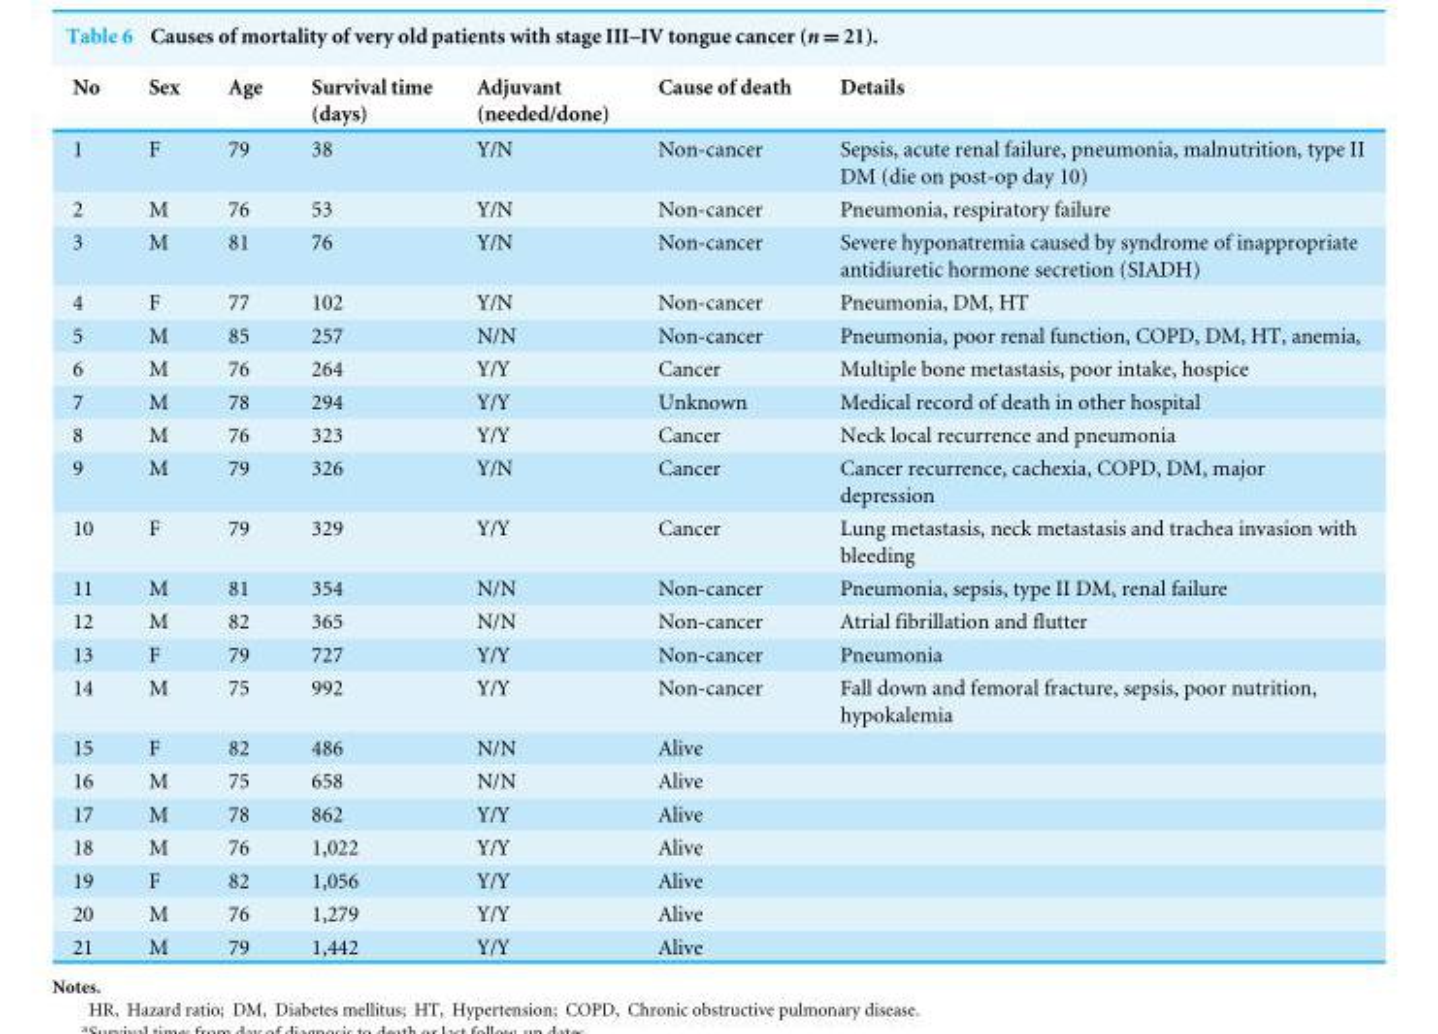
<table><thead><tr><td>No</td><td>Sex</td><td>Age</td><td>Survival time (days)</td><td>Adjuvant (needed/done)</td><td>Cause of death</td><td>Details</td></tr></thead><tbody><tr><td>1</td><td>F</td><td>79</td><td>38</td><td>Y/N</td><td>Non-cancer</td><td>Sepsis, acute renal failure, pneumonia, malnutrition, type II DM (die on post-op day 10)</td></tr><tr><td>2</td><td>M</td><td>76</td><td>53</td><td>Y/N</td><td>Non-cancer</td><td>Pneumonia, respiratory failure</td></tr><tr><td>3</td><td>M</td><td>81</td><td>76</td><td>Y/N</td><td>Non-cancer</td><td>Severe hyponatremia caused by syndrome of inappropriate antidiuretic hormone secretion (SIADH)</td></tr><tr><td>4</td><td>F</td><td>77</td><td>102</td><td>Y/N</td><td>Non-cancer</td><td>Pneumonia, DM, HT</td></tr><tr><td>5</td><td>M</td><td>85</td><td>257</td><td>N/N</td><td>Non-cancer</td><td>Pneumonia, poor renal function, COPD, DM, HT, anemia,</td></tr><tr><td>6</td><td>M</td><td>76</td><td>264</td><td>Y/Y</td><td>Cancer</td><td>Multiple bone metastasis, poor intake, hospice</td></tr><tr><td>7</td><td>M</td><td>78</td><td>294</td><td>Y/Y</td><td>Unknown</td><td>Medical record of death in other hospital</td></tr><tr><td>8</td><td>M</td><td>76</td><td>323</td><td>Y/Y</td><td>Cancer</td><td>Neck local recurrence and pneumonia</td></tr><tr><td>9</td><td>M</td><td>79</td><td>326</td><td>Y/N</td><td>Cancer</td><td>Cancer recurrence, cachexia, COPD, DM, major depression</td></tr><tr><td>10</td><td>F</td><td>79</td><td>329</td><td>Y/Y</td><td>Cancer</td><td>Lung metastasis, neck metastasis and trachea invasion with bleeding</td></tr><tr><td>11</td><td>M</td><td>81</td><td>354</td><td>N/N</td><td>Non-cancer</td><td>Pneumonia, sepsis, type II DM, renal failure</td></tr><tr><td>12</td><td>M</td><td>82</td><td>365</td><td>N/N</td><td>Non-cancer</td><td>Atrial fibrillation and flutter</td></tr><tr><td>13</td><td>F</td><td>79</td><td>727</td><td>Y/Y</td><td>Non-cancer</td><td>Pneumonia</td></tr><tr><td>14</td><td>M</td><td>75</td><td>992</td><td>Y/Y</td><td>Non-cancer</td><td>Fall down and femoral fracture, sepsis, poor nutrition, hypokalemia</td></tr><tr><td>15</td><td>F</td><td>82</td><td>486</td><td>N/N</td><td>Alive</td><td></td></tr><tr><td>16</td><td>M</td><td>75</td><td>658</td><td>N/N</td><td>Alive</td><td></td></tr><tr><td>17</td><td>M</td><td>78</td><td>862</td><td>Y/Y</td><td>Alive</td><td></td></tr><tr><td>18</td><td>M</td><td>76</td><td>1,022</td><td>Y/Y</td><td>Alive</td><td></td></tr><tr><td>19</td><td>F</td><td>82</td><td>1,056</td><td>Y/Y</td><td>Alive</td><td></td></tr><tr><td>20</td><td>M</td><td>76</td><td>1,279</td><td>Y/Y</td><td>Alive</td><td></td></tr><tr><td>21</td><td>M</td><td>79</td><td>1,442</td><td>Y/Y</td><td>Alive</td><td></td></tr></tbody></table>